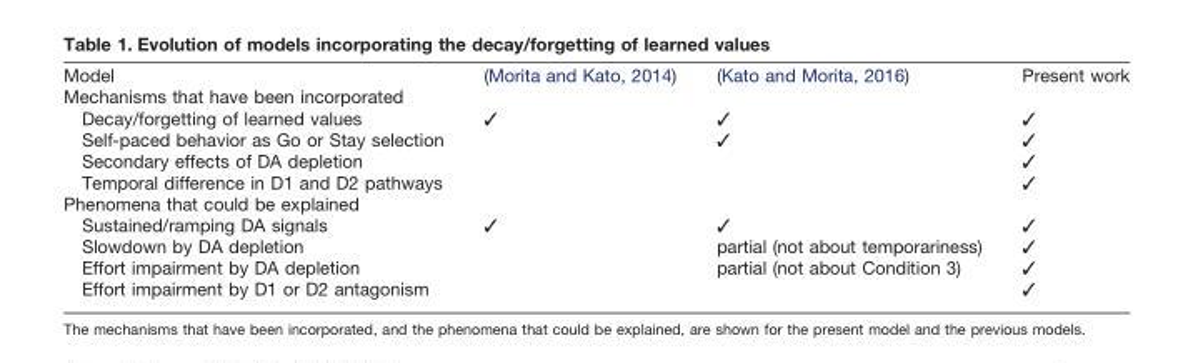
<table><thead><tr><td>Model</td><td>(Morita and Kato, 2014)</td><td>(Kato and Morita, 2016)</td><td>Present work</td></tr></thead><tbody><tr><td colspan="4">Mechanisms that have been incorporated</td></tr><tr><td>Decay/forgetting of learned values</td><td>✓</td><td>✓</td><td>✓</td></tr><tr><td>Self-paced behavior as Go or Stay selection</td><td></td><td>✓</td><td>✓</td></tr><tr><td>Secondary effects of DA depletion</td><td></td><td></td><td>✓</td></tr><tr><td>Temporal difference in D1 and D2 pathways</td><td></td><td></td><td>✓</td></tr><tr><td colspan="4">Phenomena that could be explained</td></tr><tr><td>Sustained/ramping DA signals</td><td>✓</td><td>✓</td><td>✓</td></tr><tr><td>Slowdown by DA depletion</td><td></td><td>partial (not about temporariness)</td><td>✓</td></tr><tr><td>Effort impairment by DA depletion</td><td></td><td>partial (not about Condition 3)</td><td>✓</td></tr><tr><td>Effort impairment by D1 or D2 antagonism</td><td></td><td></td><td>✓</td></tr></tbody></table>